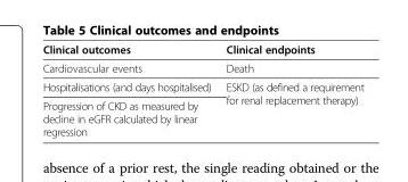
<table><thead><tr><td>Clinical outcomes</td><td>Clinical endpoints</td></tr></thead><tbody><tr><td>Cardiovascular events</td><td>Death</td></tr><tr><td>Hospitalisations (and days hospitalised)</td><td rowspan="2">ESKD (as defined a requirement for renal replacement therapy)</td></tr><tr><td>Progression of CKD as measured by decline in eGFR calculated by linear regression</td></tr></tbody></table>